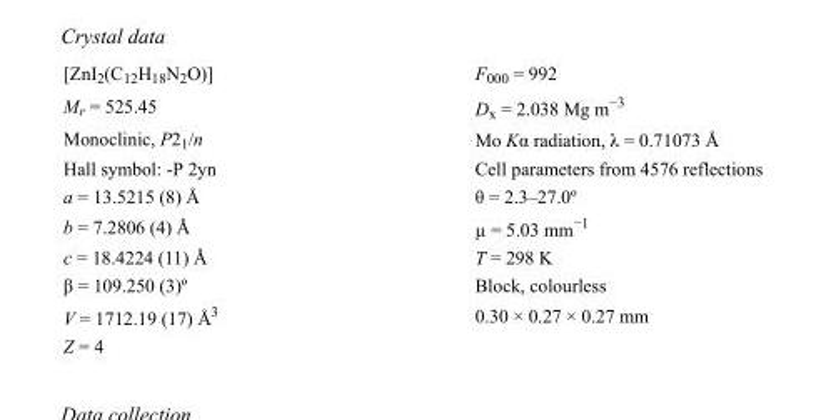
<table><tbody><tr><td>[ZnI<sub>2</sub>(C<sub>12</sub>H<sub>18</sub>N<sub>2</sub>O)]</td><td>F000 = 992</td></tr><tr><td>M<sub>r</sub> = 525.45</td><td>D<sub>x</sub> = 2.038 Mg m<sup>−3</sup></td></tr><tr><td>Monoclinic, P2<sub>1</sub>/n</td><td>Mo Kα radiation, λ = 0.71073 Å</td></tr><tr><td>Hall symbol: -P 2yn</td><td>Cell parameters from 4576 reflections</td></tr><tr><td>a = 13.5215 (8) Å</td><td>θ = 2.3–27.0º</td></tr><tr><td>b = 7.2806 (4) Å</td><td>µ = 5.03 mm<sup>−1</sup></td></tr><tr><td>c = 18.4224 (11) Å</td><td>T = 298 K</td></tr><tr><td>β = 109.250 (3)º</td><td>Block, colourless</td></tr><tr><td>V = 1712.19 (17) Å<sup>3</sup></td><td>0.30 × 0.27 × 0.27 mm</td></tr><tr><td>Z = 4</td><td></td></tr></tbody></table>